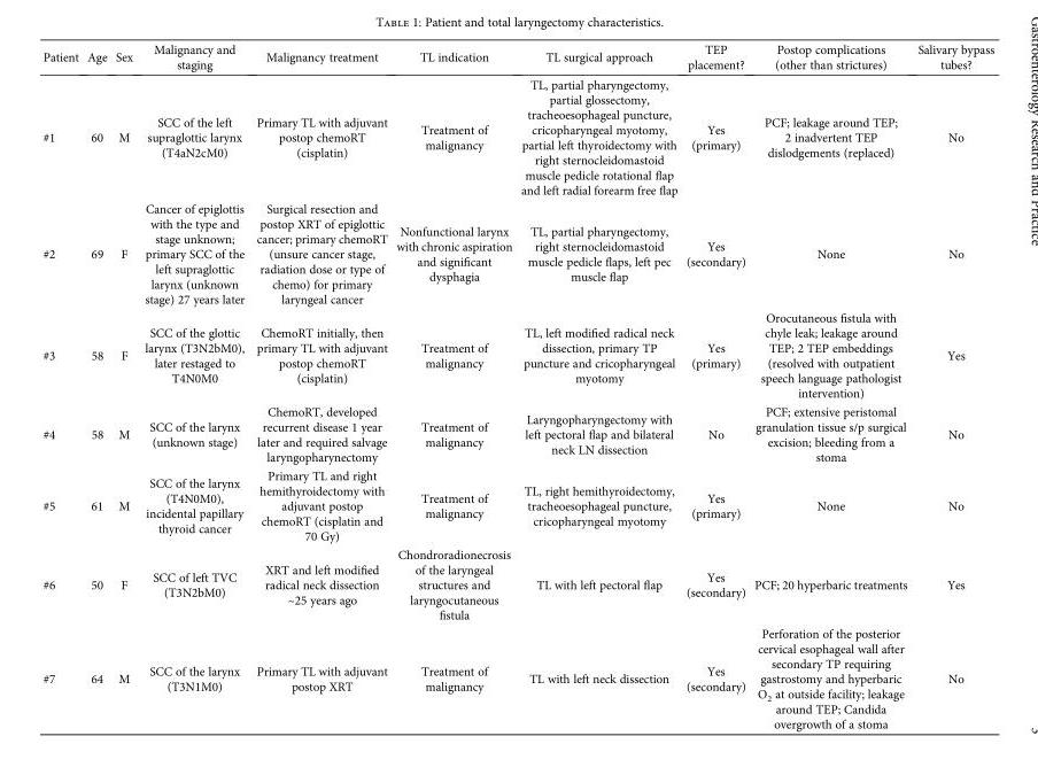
<table><thead><tr><td>Patient</td><td>Age</td><td>Sex</td><td>Malignancy and staging</td><td>Malignancy treatment</td><td>TL indication</td><td>TL surgical approach</td><td>TEP placement?</td><td>Postop complications (other than strictures)</td><td>Salivary bypass tubes?</td></tr></thead><tbody><tr><td>#1</td><td>60</td><td>M</td><td>SCC of the left supraglottic larynx (T4aN2cM0)</td><td>Primary TL with adjuvant postop chemoRT (cisplatin)</td><td>Treatment of malignancy</td><td>TL, partial pharyngectomy, partial glossectomy, tracheoesophageal puncture, cricopharyngeal myotomy, partial left thyroidectomy with right sternocleidomastoid muscle pedicle rotational flap and left radial forearm free flap</td><td>Yes (primary)</td><td>PCF; leakage around TEP; 2 inadvertent TEP dislodgements (replaced)</td><td>No</td></tr><tr><td>#2</td><td>69</td><td>F</td><td>Cancer of epiglottis with the type and stage unknown; primary SCC of the left supraglottic larynx (unknown stage) 27 years later</td><td>Surgical resection and postop XRT of epiglottic cancer; primary chemoRT (unsure cancer stage, radiation dose or type of chemo) for primary laryngeal cancer</td><td>Nonfunctional larynx with chronic aspiration and significant dysphagia</td><td>TL, partial pharyngectomy, right sternocleidomastoid muscle pedicle flaps, left pec muscle flap</td><td>Yes (secondary)</td><td>None</td><td>No</td></tr><tr><td>#3</td><td>58</td><td>F</td><td>SCC of the glottic larynx (T3N2bM0), later restaged to T4N0M0</td><td>ChemoRT initially, then primary TL with adjuvant postop chemoRT (cisplatin)</td><td>Treatment of malignancy</td><td>TL, left modified radical neck dissection, primary TP puncture and cricopharyngeal myotomy</td><td>Yes (primary)</td><td>Orocutaneous fistula with chyle leak; leakage around TEP; 2 TEP embeddings (resolved with outpatient speech language pathologist intervention)</td><td>Yes</td></tr><tr><td>#4</td><td>58</td><td>M</td><td>SCC of the larynx (unknown stage)</td><td>ChemoRT, developed recurrent disease 1 year later and required salvage laryngopharynectomy</td><td>Treatment of malignancy</td><td>Laryngopharyngectomy with left pectoral flap and bilateral neck LN dissection</td><td>No</td><td>PCF; extensive peristomal granulation tissue s/p surgical excision; bleeding from a stoma</td><td>No</td></tr><tr><td>#5</td><td>61</td><td>M</td><td>SCC of the larynx (T4N0M0), incidental papillary thyroid cancer</td><td>Primary TL and right hemithyroidectomy with adjuvant postop chemoRT (cisplatin and 70 Gy)</td><td>Treatment of malignancy</td><td>TL, right hemithyroidectomy, tracheoesophageal puncture, cricopharyngeal myotomy</td><td>Yes (primary)</td><td>None</td><td>No</td></tr><tr><td>#6</td><td>50</td><td>F</td><td>SCC of left TVC (T3N2bM0)</td><td>XRT and left modified radical neck dissection ~25 years ago</td><td>Chondroradionecrosis of the laryngeal structures and laryngocutaneous fistula</td><td>TL with left pectoral flap</td><td>Yes (secondary)</td><td>PCF; 20 hyperbaric treatments</td><td>Yes</td></tr><tr><td>#7</td><td>64</td><td>M</td><td>SCC of the larynx (T3N1M0)</td><td>Primary TL with adjuvant postop XRT</td><td>Treatment of malignancy</td><td>TL with left neck dissection</td><td>Yes (secondary)</td><td>Perforation of the posterior cervical esophageal wall after secondary TP requiring gastrostomy and hyperbaric O<sub>2</sub> at outside facility; leakage around TEP; Candida overgrowth of a stoma</td><td>No</td></tr></tbody></table>